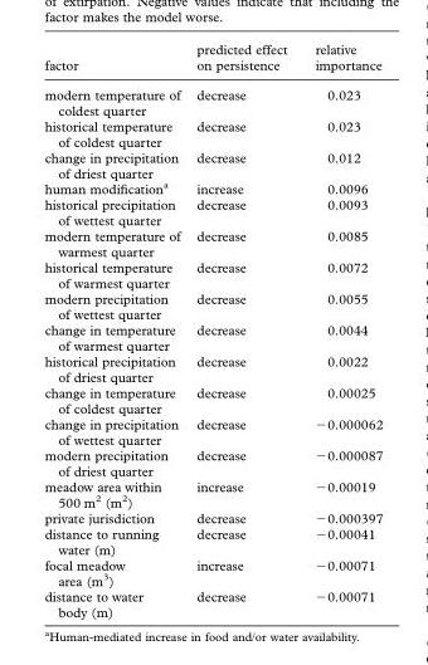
<table><thead><tr><td>factor</td><td>predicted effect on persistence</td><td>relative importance</td></tr></thead><tbody><tr><td>modern temperature of coldest quarter</td><td>decrease</td><td>0.023</td></tr><tr><td>historical temperature of coldest quarter</td><td>decrease</td><td>0.023</td></tr><tr><td>change in precipitation of driest quarter</td><td>decrease</td><td>0.012</td></tr><tr><td>human modification<sup>a</sup></td><td>increase</td><td>0.0096</td></tr><tr><td>historical precipitation of wettest quarter</td><td>decrease</td><td>0.0093</td></tr><tr><td>modern temperature of warmest quarter</td><td>decrease</td><td>0.0085</td></tr><tr><td>historical temperature of warmest quarter</td><td>decrease</td><td>0.0072</td></tr><tr><td>modern precipitation of wettest quarter</td><td>decrease</td><td>0.0055</td></tr><tr><td>change in temperature of warmest quarter</td><td>decrease</td><td>0.0044</td></tr><tr><td>historical precipitation of driest quarter</td><td>decrease</td><td>0.0022</td></tr><tr><td>change in temperature of coldest quarter</td><td>decrease</td><td>0.00025</td></tr><tr><td>change in precipitation of wettest quarter</td><td>decrease</td><td>−0.000062</td></tr><tr><td>modern precipitation of driest quarter</td><td>decrease</td><td>−0.000087</td></tr><tr><td>meadow area within 500 m<sup>2</sup> (m<sup>2</sup>)</td><td>increase</td><td>−0.00019</td></tr><tr><td>private jurisdiction</td><td>decrease</td><td>−0.000397</td></tr><tr><td>distance to running water (m)</td><td>decrease</td><td>−0.00041</td></tr><tr><td>focal meadow area (m<sup>3</sup>)</td><td>increase</td><td>−0.00071</td></tr><tr><td>distance to water body (m)</td><td>decrease</td><td>−0.00071</td></tr></tbody></table>